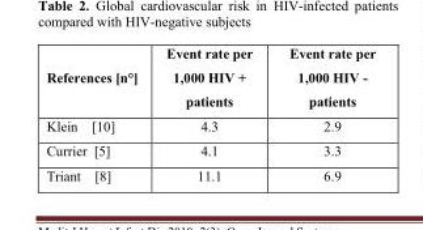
<table><thead><tr><td>References [n°]</td><td>Event rate per 1,000 HIV + patients</td><td>Event rate per 1,000 HIV - patients</td></tr></thead><tbody><tr><td>Klein [10]</td><td>4.3</td><td>2.9</td></tr><tr><td>Currier [5]</td><td>4.1</td><td>3.3</td></tr><tr><td>Triant [8]</td><td>11.1</td><td>6.9</td></tr></tbody></table>